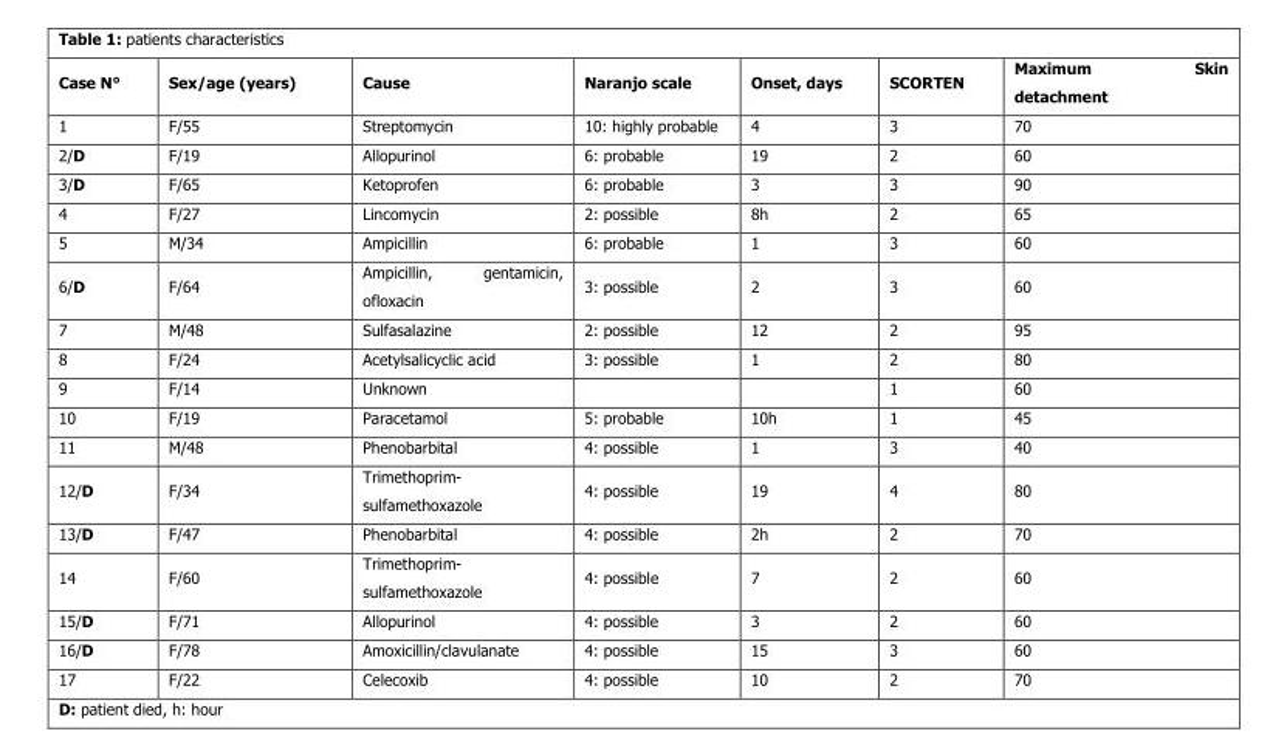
<table><thead><tr><td>Case N°</td><td>Sex/age (years)</td><td>Cause</td><td>Naranjo scale</td><td>Onset, days</td><td>SCORTEN</td><td>Maximum Skin detachment</td></tr></thead><tbody><tr><td>1</td><td>F/55</td><td>Streptomycin</td><td>10: highly probable</td><td>4</td><td>3</td><td>70</td></tr><tr><td>2/D</td><td>F/19</td><td>Allopurinol</td><td>6: probable</td><td>19</td><td>2</td><td>60</td></tr><tr><td>3/D</td><td>F/65</td><td>Ketoprofen</td><td>6: probable</td><td>3</td><td>3</td><td>90</td></tr><tr><td>4</td><td>F/27</td><td>Lincomycin</td><td>2: possible</td><td>8h</td><td>2</td><td>65</td></tr><tr><td>5</td><td>M/34</td><td>Ampicillin</td><td>6: probable</td><td>1</td><td>3</td><td>60</td></tr><tr><td>6/D</td><td>F/64</td><td>Ampicillin, gentamicin, ofloxacin</td><td>3: possible</td><td>2</td><td>3</td><td>60</td></tr><tr><td>7</td><td>M/48</td><td>Sulfasalazine</td><td>2: possible</td><td>12</td><td>2</td><td>95</td></tr><tr><td>8</td><td>F/24</td><td>Acetylsalicyclic acid</td><td>3: possible</td><td>1</td><td>2</td><td>80</td></tr><tr><td>9</td><td>F/14</td><td>Unknown</td><td></td><td></td><td>1</td><td>60</td></tr><tr><td>10</td><td>F/19</td><td>Paracetamol</td><td>5: probable</td><td>10h</td><td>1</td><td>45</td></tr><tr><td>11</td><td>M/48</td><td>Phenobarbital</td><td>4: possible</td><td>1</td><td>3</td><td>40</td></tr><tr><td>12/D</td><td>F/34</td><td>Trimethoprim- sulfamethoxazole</td><td>4: possible</td><td>19</td><td>4</td><td>80</td></tr><tr><td>13/D</td><td>F/47</td><td>Phenobarbital</td><td>4: possible</td><td>2h</td><td>2</td><td>70</td></tr><tr><td>14</td><td>F/60</td><td>Trimethoprim- sulfamethoxazole</td><td>4: possible</td><td>7</td><td>2</td><td>60</td></tr><tr><td>15/D</td><td>F/71</td><td>Allopurinol</td><td>4: possible</td><td>3</td><td>2</td><td>60</td></tr><tr><td>16/D</td><td>F/78</td><td>Amoxicillin/clavulanate</td><td>4: possible</td><td>15</td><td>3</td><td>60</td></tr><tr><td>17</td><td>F/22</td><td>Celecoxib</td><td>4: possible</td><td>10</td><td>2</td><td>70</td></tr></tbody></table>